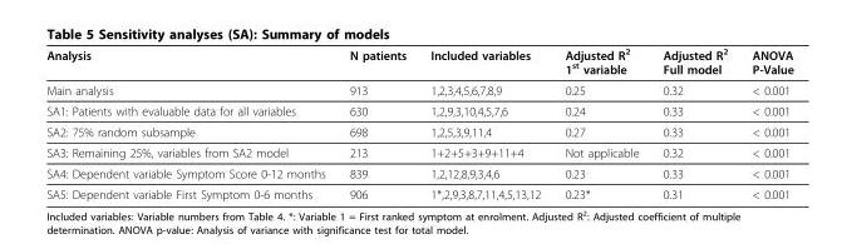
<table><thead><tr><td>Analysis</td><td>N patients</td><td>Included variables</td><td>Adjusted R<sup>2</sup> 1<sup>st</sup> variable</td><td>Adjusted R<sup>2</sup> Full model</td><td>ANOVA P-Value</td></tr></thead><tbody><tr><td>Main analysis</td><td>913</td><td>1,2,3,4,5,6,7,8,9</td><td>0.25</td><td>0.32</td><td>&lt; 0.001</td></tr><tr><td>SA1: Patients with evaluable data for all variables</td><td>630</td><td>1,2,9,3,10,4,5,7,6</td><td>0.24</td><td>0.33</td><td>&lt; 0.001</td></tr><tr><td>SA2: 75% random subsample</td><td>698</td><td>1,2,5,3,9,11,4</td><td>0.27</td><td>0.33</td><td>&lt; 0.001</td></tr><tr><td>SA3: Remaining 25%, variables from SA2 model</td><td>213</td><td>1+2+5+3+9+11+4</td><td>Not applicable</td><td>0.32</td><td>&lt; 0.001</td></tr><tr><td>SA4: Dependent variable Symptom Score 0-12 months</td><td>839</td><td>1,2,12,8,9,3,4,6</td><td>0.23</td><td>0.33</td><td>&lt; 0.001</td></tr><tr><td>SA5: Dependent variable First Symptom 0-6 months</td><td>906</td><td>1*,2,9,3,8,7,11,4,5,13,12</td><td>0.23*</td><td>0.31</td><td>&lt; 0.001</td></tr></tbody></table>